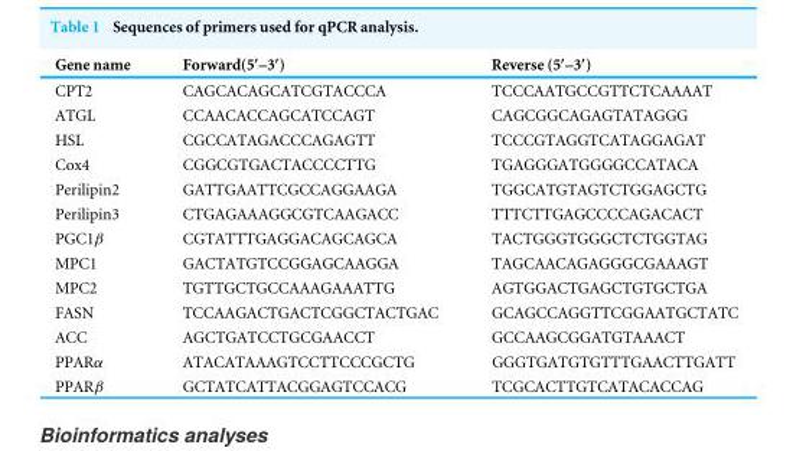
<table><thead><tr><td>Gene name</td><td>Forward(5′–3′)</td><td>Reverse (5′–3′)</td></tr></thead><tbody><tr><td>CPT2</td><td>CAGCACAGCATCGTACCCA</td><td>TCCCAATGCCGTTCTCAAAAT</td></tr><tr><td>ATGL</td><td>CCAACACCAGCATCCAGT</td><td>CAGCGGCAGAGTATAGGG</td></tr><tr><td>HSL</td><td>CGCCATAGACCCAGAGTT</td><td>TCCCGTAGGTCATAGGAGAT</td></tr><tr><td>Cox4</td><td>CGGCGTGACTACCCCTTG</td><td>TGAGGGATGGGGCCATACA</td></tr><tr><td>Perilipin2</td><td>GATTGAATTCGCCAGGAAGA</td><td>TGGCATGTAGTCTGGAGCTG</td></tr><tr><td>Perilipin3</td><td>CTGAGAAAGGCGTCAAGACC</td><td>TTTCTTGAGCCCCAGACACT</td></tr><tr><td>PGC1β</td><td>CGTATTTGAGGACAGCAGCA</td><td>TACTGGGTGGGCTCTGGTAG</td></tr><tr><td>MPC1</td><td>GACTATGTCCGGAGCAAGGA</td><td>TAGCAACAGAGGGCGAAAGT</td></tr><tr><td>MPC2</td><td>TGTTGCTGCCAAAGAAATTG</td><td>AGTGGACTGAGCTGTGCTGA</td></tr><tr><td>FASN</td><td>TCCAAGACTGACTCGGCTACTGAC</td><td>GCAGCCAGGTTCGGAATGCTATC</td></tr><tr><td>ACC</td><td>AGCTGATCCTGCGAACCT</td><td>GCCAAGCGGATGTAAACT</td></tr><tr><td>PPARα</td><td>ATACATAAAGTCCTTCCCGCTG</td><td>GGGTGATGTGTTTGAACTTGATT</td></tr><tr><td>PPARβ</td><td>GCTATCATTACGGAGTCCACG</td><td>TCGCACTTGTCATACACCAG</td></tr></tbody></table>